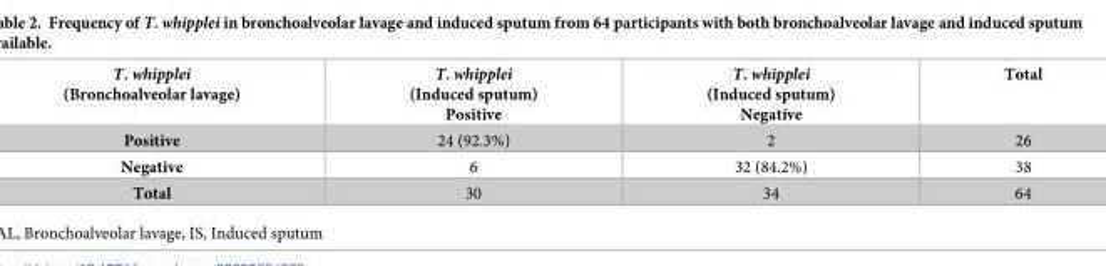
<table><thead><tr><td>T. whipplei (Bronchoalveolar lavage)</td><td>T. whipplei (Induced sputum) Positive</td><td>T. whipplei (Induced sputum) Negative</td><td>Total</td></tr></thead><tbody><tr><td>Positive</td><td>24 (92.3%)</td><td>2</td><td>26</td></tr><tr><td>Negative</td><td>6</td><td>32 (84.2%)</td><td>38</td></tr><tr><td>Total</td><td>30</td><td>34</td><td>64</td></tr></tbody></table>